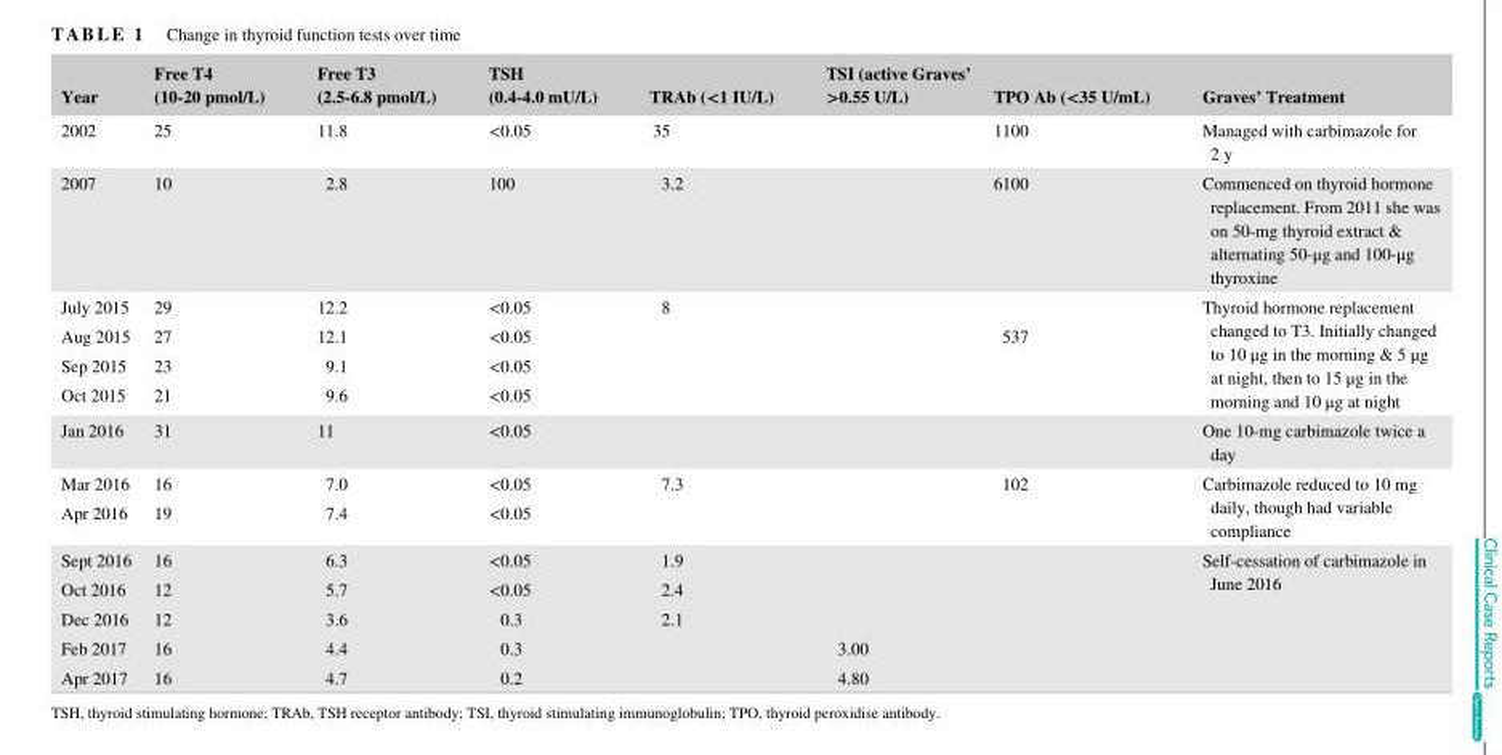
<table><thead><tr><td>Year</td><td>Free T4 (10- 20 pmol/L)</td><td>Free T3 (2.5- 6.8 pmol/L)</td><td>TSH (0.4- 4.0 mU/L)</td><td>TRAb (&lt;1 IU/L)</td><td>TSI (active Graves’ &gt;0.55 U/L)</td><td>TPO Ab (&lt;35 U/mL)</td><td>Graves’ Treatment</td></tr></thead><tbody><tr><td>2002</td><td>25</td><td>11.8</td><td>&lt;0.05</td><td>35</td><td></td><td>1100</td><td>Managed with carbimazole for 2 y</td></tr><tr><td>2007</td><td>10</td><td>2.8</td><td>100</td><td>3.2</td><td></td><td>6100</td><td>Commenced on thyroid hormone replacement. From 2011 she was on 50- mg thyroid extract &amp; alternating 50- μg and 100- μg thyroxine</td></tr><tr><td>July 2015</td><td>29</td><td>12.2</td><td>&lt;0.05</td><td>8</td><td></td><td></td><td rowspan="4">Thyroid hormone replacement changed to T3. Initially changed to 10 μg in the morning &amp; 5 μg at night, then to 15 μg in the morning and 10 μg at night</td></tr><tr><td>Aug 2015</td><td>27</td><td>12.1</td><td>&lt;0.05</td><td></td><td></td><td>537</td></tr><tr><td>Sep 2015</td><td>23</td><td>9.1</td><td>&lt;0.05</td><td></td><td></td><td></td></tr><tr><td>Oct 2015</td><td>21</td><td>9.6</td><td>&lt;0.05</td><td></td><td></td><td></td></tr><tr><td>Jan 2016</td><td>31</td><td>11</td><td>&lt;0.05</td><td></td><td></td><td></td><td>One 10- mg carbimazole twice a day</td></tr><tr><td>Mar 2016</td><td>16</td><td>7.0</td><td>&lt;0.05</td><td>7.3</td><td></td><td>102</td><td rowspan="2">Carbimazole reduced to 10 mg daily, though had variable compliance</td></tr><tr><td>Apr 2016</td><td>19</td><td>7.4</td><td>&lt;0.05</td><td></td><td></td><td></td></tr><tr><td>Sept 2016</td><td>16</td><td>6.3</td><td>&lt;0.05</td><td>1.9</td><td></td><td></td><td rowspan="5">Self- cessation of carbimazole in June 2016</td></tr><tr><td>Oct 2016</td><td>12</td><td>5.7</td><td>&lt;0.05</td><td>2.4</td><td></td><td></td></tr><tr><td>Dec 2016</td><td>12</td><td>3.6</td><td>0.3</td><td>2.1</td><td></td><td></td></tr><tr><td>Feb 2017</td><td>16</td><td>4.4</td><td>0.3</td><td></td><td>3.00</td><td></td></tr><tr><td>Apr 2017</td><td>16</td><td>4.7</td><td>0.2</td><td></td><td>4.80</td><td></td></tr></tbody></table>